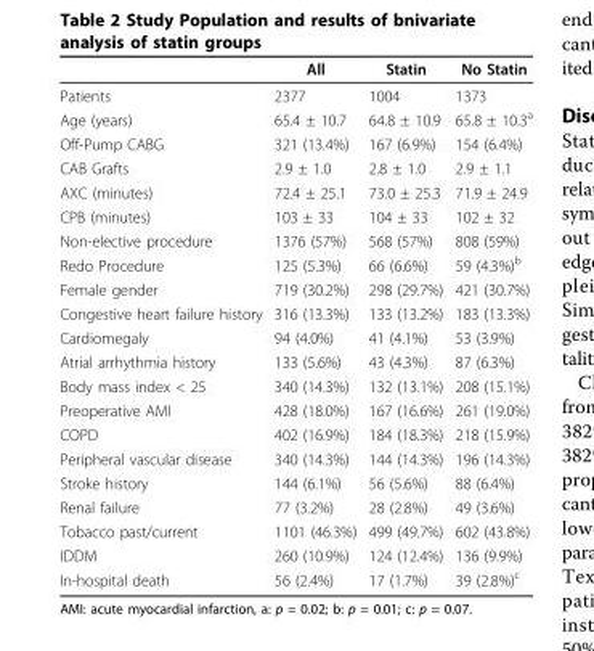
<table><thead><tr><td></td><td>All</td><td>Statin</td><td>No Statin</td></tr></thead><tbody><tr><td>Patients</td><td>2377</td><td>1004</td><td>1373</td></tr><tr><td>Age (years)</td><td>65.4 ± 10.7</td><td>64.8 ± 10.9</td><td>65.8 ± 10.3<sup>a</sup></td></tr><tr><td>Off-Pump CABG</td><td>321 (13.4%)</td><td>167 (6.9%)</td><td>154 (6.4%)</td></tr><tr><td>CAB Grafts</td><td>2.9 ± 1.0</td><td>2.8 ± 1.0</td><td>2.9 ± 1.1</td></tr><tr><td>AXC (minutes)</td><td>72.4 ± 25.1</td><td>73.0 ± 25.3</td><td>71.9 ± 24.9</td></tr><tr><td>CPB (minutes)</td><td>103 ± 33</td><td>104 ± 33</td><td>102 ± 32</td></tr><tr><td>Non-elective procedure</td><td>1376 (57%)</td><td>568 (57%)</td><td>808 (59%)</td></tr><tr><td>Redo Procedure</td><td>125 (5.3%)</td><td>66 (6.6%)</td><td>59 (4.3%)<sup>b</sup></td></tr><tr><td>Female gender</td><td>719 (30.2%)</td><td>298 (29.7%)</td><td>421 (30.7%)</td></tr><tr><td>Congestive heart failure history</td><td>316 (13.3%)</td><td>133 (13.2%)</td><td>183 (13.3%)</td></tr><tr><td>Cardiomegaly</td><td>94 (4.0%)</td><td>41 (4.1%)</td><td>53 (3.9%)</td></tr><tr><td>Atrial arrhythmia history</td><td>133 (5.6%)</td><td>43 (4.3%)</td><td>87 (6.3%)</td></tr><tr><td>Body mass index &lt; 25</td><td>340 (14.3%)</td><td>132 (13.1%)</td><td>208 (15.1%)</td></tr><tr><td>Preoperative AMI</td><td>428 (18.0%)</td><td>167 (16.6%)</td><td>261 (19.0%)</td></tr><tr><td>COPD</td><td>402 (16.9%)</td><td>184 (18.3%)</td><td>218 (15.9%)</td></tr><tr><td>Peripheral vascular disease</td><td>340 (14.3%)</td><td>144 (14.3%)</td><td>196 (14.3%)</td></tr><tr><td>Stroke history</td><td>144 (6.1%)</td><td>56 (5.6%)</td><td>88 (6.4%)</td></tr><tr><td>Renal failure</td><td>77 (3.2%)</td><td>28 (2.8%)</td><td>49 (3.6%)</td></tr><tr><td>Tobacco past/current</td><td>1101 (46.3%)</td><td>499 (49.7%)</td><td>602 (43.8%)</td></tr><tr><td>IDDM</td><td>260 (10.9%)</td><td>124 (12.4%)</td><td>136 (9.9%)</td></tr><tr><td>In-hospital death</td><td>56 (2.4%)</td><td>17 (1.7%)</td><td>39 (2.8%)<sup>c</sup></td></tr></tbody></table>